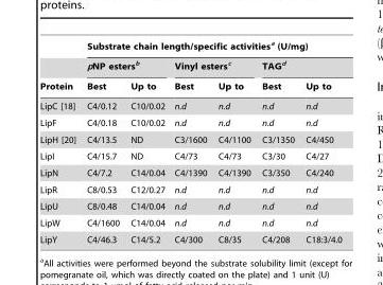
<table><thead><tr><td rowspan="3">Protein</td><td colspan="6">Substrate chain length/specific activities<sup>a</sup> (U/mg)</td></tr><tr><td colspan="2">pNP esters<sup>b</sup></td><td colspan="2">Vinyl esters<sup>c</sup></td><td colspan="2">TAG<sup>d</sup></td></tr><tr><td>Best</td><td>Up to</td><td>Best</td><td>Up to</td><td>Best</td><td>Up to</td></tr></thead><tbody><tr><td>LipC [18]</td><td>C4/0.12</td><td>C10/0.02</td><td>n.d</td><td>n.d</td><td>n.d</td><td>n.d</td></tr><tr><td>LipF</td><td>C4/0.18</td><td>C10/0.02</td><td>n.d</td><td>n.d</td><td>n.d</td><td>n.d</td></tr><tr><td>LipH [20]</td><td>C4/13.5</td><td>ND</td><td>C3/1600</td><td>C4/1100</td><td>C3/1350</td><td>C4/450</td></tr><tr><td>LipI</td><td>C4/15.7</td><td>ND</td><td>C4/73</td><td>C4/73</td><td>C3/30</td><td>C4/27</td></tr><tr><td>LipN</td><td>C4/7.2</td><td>C14/0.04</td><td>C4/1390</td><td>C4/1390</td><td>C3/350</td><td>C4/240</td></tr><tr><td>LipR</td><td>C8/0.53</td><td>C12/0.27</td><td>n.d</td><td>n.d</td><td>n.d</td><td>n.d</td></tr><tr><td>LipU</td><td>C8/0.48</td><td>C14/0.04</td><td>n.d</td><td>n.d</td><td>n.d</td><td>n.d</td></tr><tr><td>LipW</td><td>C4/1600</td><td>C14/0.04</td><td>n.d</td><td>n.d</td><td>n.d</td><td>n.d</td></tr><tr><td>LipY</td><td>C4/46.3</td><td>C14/5.2</td><td>C4/300</td><td>C8/35</td><td>C4/208</td><td>C18:3/4.0</td></tr></tbody></table>